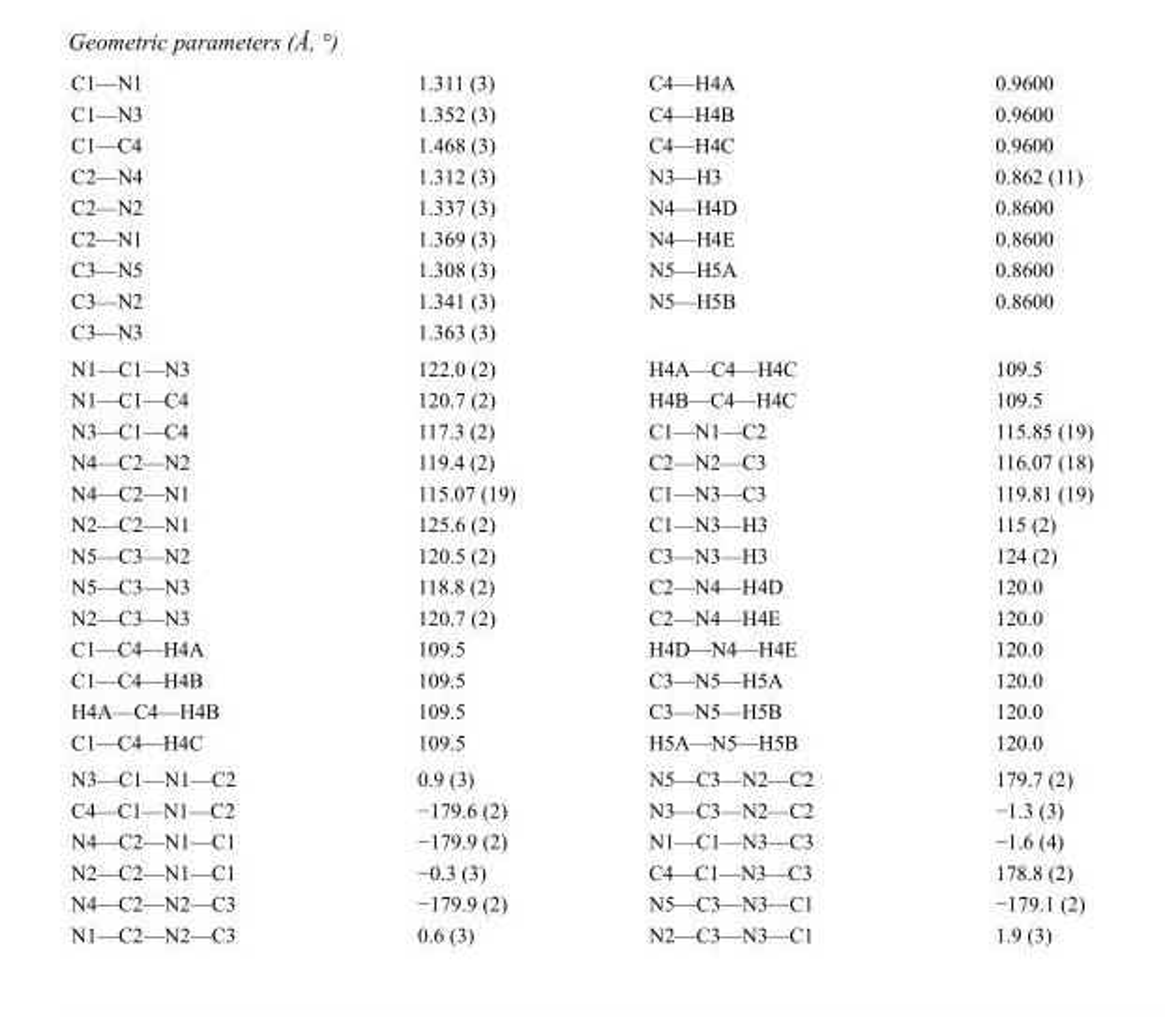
<table><tbody><tr><td>C1—N1</td><td>1.311 (3)</td><td>C4—H4A</td><td>0.9600</td></tr><tr><td>C1—N3</td><td>1.352 (3)</td><td>C4—H4B</td><td>0.9600</td></tr><tr><td>C1—C4</td><td>1.468 (3)</td><td>C4—H4C</td><td>0.9600</td></tr><tr><td>C2—N4</td><td>1.312 (3)</td><td>N3—H3</td><td>0.862 (11)</td></tr><tr><td>C2—N2</td><td>1.337 (3)</td><td>N4—H4D</td><td>0.8600</td></tr><tr><td>C2—N1</td><td>1.369 (3)</td><td>N4—H4E</td><td>0.8600</td></tr><tr><td>C3—N5</td><td>1.308 (3)</td><td>N5—H5A</td><td>0.8600</td></tr><tr><td>C3—N2</td><td>1.341 (3)</td><td>N5—H5B</td><td>0.8600</td></tr><tr><td>C3—N3</td><td>1.363 (3)</td><td></td><td></td></tr><tr><td>N1—C1—N3</td><td>122.0 (2)</td><td>H4A—C4—H4C</td><td>109.5</td></tr><tr><td>N1—C1—C4</td><td>120.7 (2)</td><td>H4B—C4—H4C</td><td>109.5</td></tr><tr><td>N3—C1—C4</td><td>117.3 (2)</td><td>C1—N1—C2</td><td>115.85 (19)</td></tr><tr><td>N4—C2—N2</td><td>119.4 (2)</td><td>C2—N2—C3</td><td>116.07 (18)</td></tr><tr><td>N4—C2—N1</td><td>115.07 (19)</td><td>C1—N3—C3</td><td>119.81 (19)</td></tr><tr><td>N2—C2—N1</td><td>125.6 (2)</td><td>C1—N3—H3</td><td>115 (2)</td></tr><tr><td>N5—C3—N2</td><td>120.5 (2)</td><td>C3—N3—H3</td><td>124 (2)</td></tr><tr><td>N5—C3—N3</td><td>118.8 (2)</td><td>C2—N4—H4D</td><td>120.0</td></tr><tr><td>N2—C3—N3</td><td>120.7 (2)</td><td>C2—N4—H4E</td><td>120.0</td></tr><tr><td>C1—C4—H4A</td><td>109.5</td><td>H4D—N4—H4E</td><td>120.0</td></tr><tr><td>C1—C4—H4B</td><td>109.5</td><td>C3—N5—H5A</td><td>120.0</td></tr><tr><td>H4A—C4—H4B</td><td>109.5</td><td>C3—N5—H5B</td><td>120.0</td></tr><tr><td>C1—C4—H4C</td><td>109.5</td><td>H5A—N5—H5B</td><td>120.0</td></tr><tr><td>N3—C1—N1—C2</td><td>0.9 (3)</td><td>N5—C3—N2—C2</td><td>179.7 (2)</td></tr><tr><td>C4—C1—N1—C2</td><td>−179.6 (2)</td><td>N3—C3—N2—C2</td><td>−1.3 (3)</td></tr><tr><td>N4—C2—N1—C1</td><td>−179.9 (2)</td><td>N1—C1—N3—C3</td><td>−1.6 (4)</td></tr><tr><td>N2—C2—N1—C1</td><td>−0.3 (3)</td><td>C4—C1—N3—C3</td><td>178.8 (2)</td></tr><tr><td>N4—C2—N2—C3</td><td>−179.9 (2)</td><td>N5—C3—N3—C1</td><td>−179.1 (2)</td></tr><tr><td>N1—C2—N2—C3</td><td>0.6 (3)</td><td>N2—C3—N3—C1</td><td>1.9 (3)</td></tr></tbody></table>